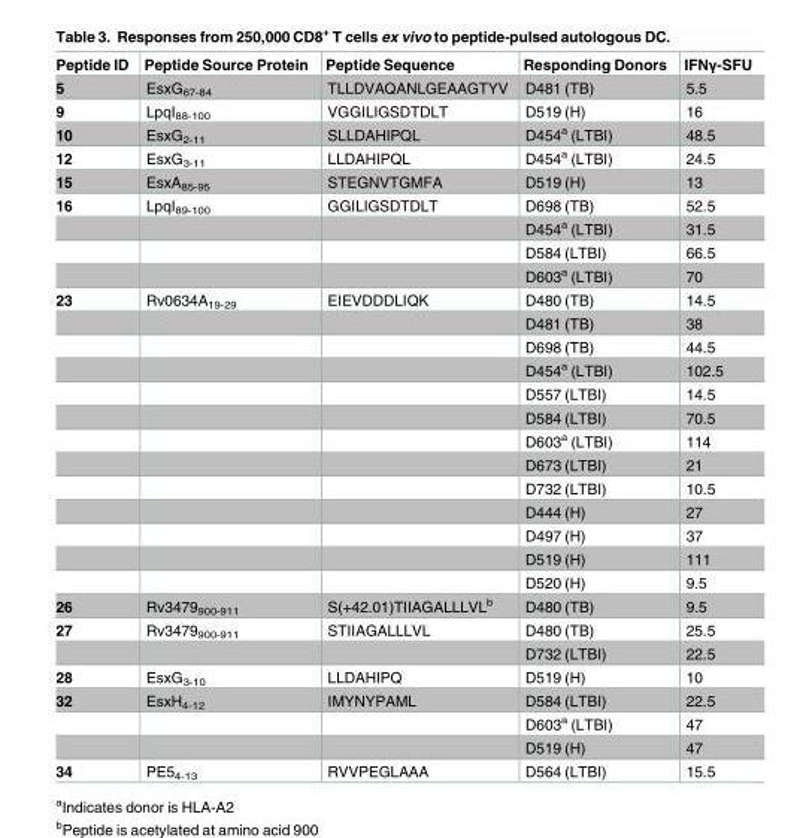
<table><thead><tr><td>Peptide ID</td><td>Peptide Source Protein</td><td>Peptide Sequence</td><td>Responding Donors</td><td>IFNγ-SFU</td></tr></thead><tbody><tr><td>5</td><td>EsxG<sub>67-84</sub></td><td>TLLDVAQANLGEAAGTYV</td><td>D481 (TB)</td><td>5.5</td></tr><tr><td>9</td><td>LpqI<sub>88-100</sub></td><td>VGGILIGSDTDLT</td><td>D519 (H)</td><td>16</td></tr><tr><td>10</td><td>EsxG<sub>2-11</sub></td><td>SLLDAHIPQL</td><td>D454<sup>a</sup> (LTBI)</td><td>48.5</td></tr><tr><td>12</td><td>EsxG<sub>3-11</sub></td><td>LLDAHIPQL</td><td>D454<sup>a</sup> (LTBI)</td><td>24.5</td></tr><tr><td>15</td><td>EsxA<sub>85-95</sub></td><td>STEGNVTGMFA</td><td>D519 (H)</td><td>13</td></tr><tr><td rowspan="4">16</td><td>LpqI<sub>89-100</sub></td><td>GGILIGSDTDLT</td><td>D698 (TB)</td><td>52.5</td></tr><tr><td></td><td></td><td>D454<sup>a</sup> (LTBI)</td><td>31.5</td></tr><tr><td></td><td></td><td>D584 (LTBI)</td><td>66.5</td></tr><tr><td></td><td></td><td>D603<sup>a</sup> (LTBI)</td><td>70</td></tr><tr><td rowspan="13">23</td><td>Rv0634A<sub>19-29</sub></td><td>EIEVDDDLIQK</td><td>D480 (TB)</td><td>14.5</td></tr><tr><td></td><td></td><td>D481 (TB)</td><td>38</td></tr><tr><td></td><td></td><td>D698 (TB)</td><td>44.5</td></tr><tr><td></td><td></td><td>D454<sup>a</sup> (LTBI)</td><td>102.5</td></tr><tr><td></td><td></td><td>D557 (LTBI)</td><td>14.5</td></tr><tr><td></td><td></td><td>D584 (LTBI)</td><td>70.5</td></tr><tr><td></td><td></td><td>D603<sup>a</sup> (LTBI)</td><td>114</td></tr><tr><td></td><td></td><td>D673 (LTBI)</td><td>21</td></tr><tr><td></td><td></td><td>D732 (LTBI)</td><td>10.5</td></tr><tr><td></td><td></td><td>D444 (H)</td><td>27</td></tr><tr><td></td><td></td><td>D497 (H)</td><td>37</td></tr><tr><td></td><td></td><td>D519 (H)</td><td>111</td></tr><tr><td></td><td></td><td>D520 (H)</td><td>9.5</td></tr><tr><td>26</td><td>Rv3479<sub>900-911</sub></td><td>S(+42.01)TIIAGALLLVL<sup>b</sup></td><td>D480 (TB)</td><td>9.5</td></tr><tr><td rowspan="2">27</td><td>Rv3479<sub>900-911</sub></td><td>STIIAGALLLVL</td><td>D480 (TB)</td><td>25.5</td></tr><tr><td></td><td></td><td>D732 (LTBI)</td><td>22.5</td></tr><tr><td>28</td><td>EsxG<sub>3-10</sub></td><td>LLDAHIPQ</td><td>D519 (H)</td><td>10</td></tr><tr><td rowspan="3">32</td><td>EsxH<sub>4-12</sub></td><td>IMYNYPAML</td><td>D584 (LTBI)</td><td>22.5</td></tr><tr><td></td><td></td><td>D603<sup>a</sup> (LTBI)</td><td>47</td></tr><tr><td></td><td></td><td>D519 (H)</td><td>47</td></tr><tr><td>34</td><td>PE5<sub>4-13</sub></td><td>RVVPEGLAAA</td><td>D564 (LTBI)</td><td>15.5</td></tr></tbody></table>